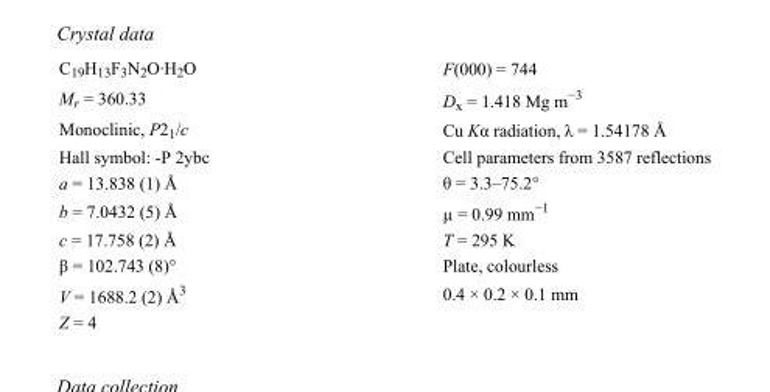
<table><tbody><tr><td>C<sub>19</sub>H<sub>13</sub>F<sub>3</sub>N<sub>2</sub>O·H<sub>2</sub>O</td><td>F(000) = 744</td></tr><tr><td>M<sub>r</sub> = 360.33</td><td>D<sub>x</sub> = 1.418 Mg m<sup>−3</sup></td></tr><tr><td>Monoclinic, P2<sub>1</sub>/c</td><td>Cu Kα radiation, λ = 1.54178 Å</td></tr><tr><td>Hall symbol: -P 2ybc</td><td>Cell parameters from 3587 reflections</td></tr><tr><td>a = 13.838 (1) Å</td><td>θ = 3.3–75.2°</td></tr><tr><td>b = 7.0432 (5) Å</td><td>µ = 0.99 mm<sup>−1</sup></td></tr><tr><td>c = 17.758 (2) Å</td><td>T = 295 K</td></tr><tr><td>β = 102.743 (8)°</td><td>Plate, colourless</td></tr><tr><td>V = 1688.2 (2) Å<sup>3</sup></td><td>0.4 × 0.2 × 0.1 mm</td></tr><tr><td>Z = 4</td><td></td></tr></tbody></table>